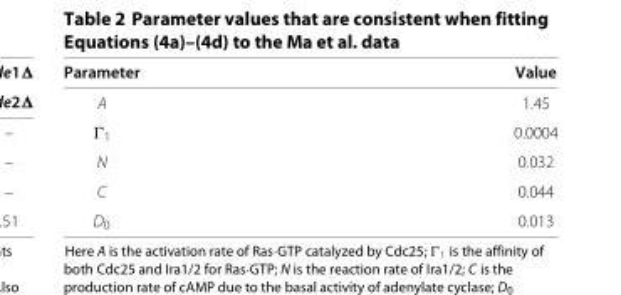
<table><thead><tr><td>Parameter</td><td>Value</td></tr></thead><tbody><tr><td>A</td><td>1.45</td></tr><tr><td>Γ<sub>1</sub></td><td>0.0004</td></tr><tr><td>N</td><td>0.032</td></tr><tr><td>C</td><td>0.044</td></tr><tr><td>D<sub>0</sub></td><td>0.013</td></tr></tbody></table>